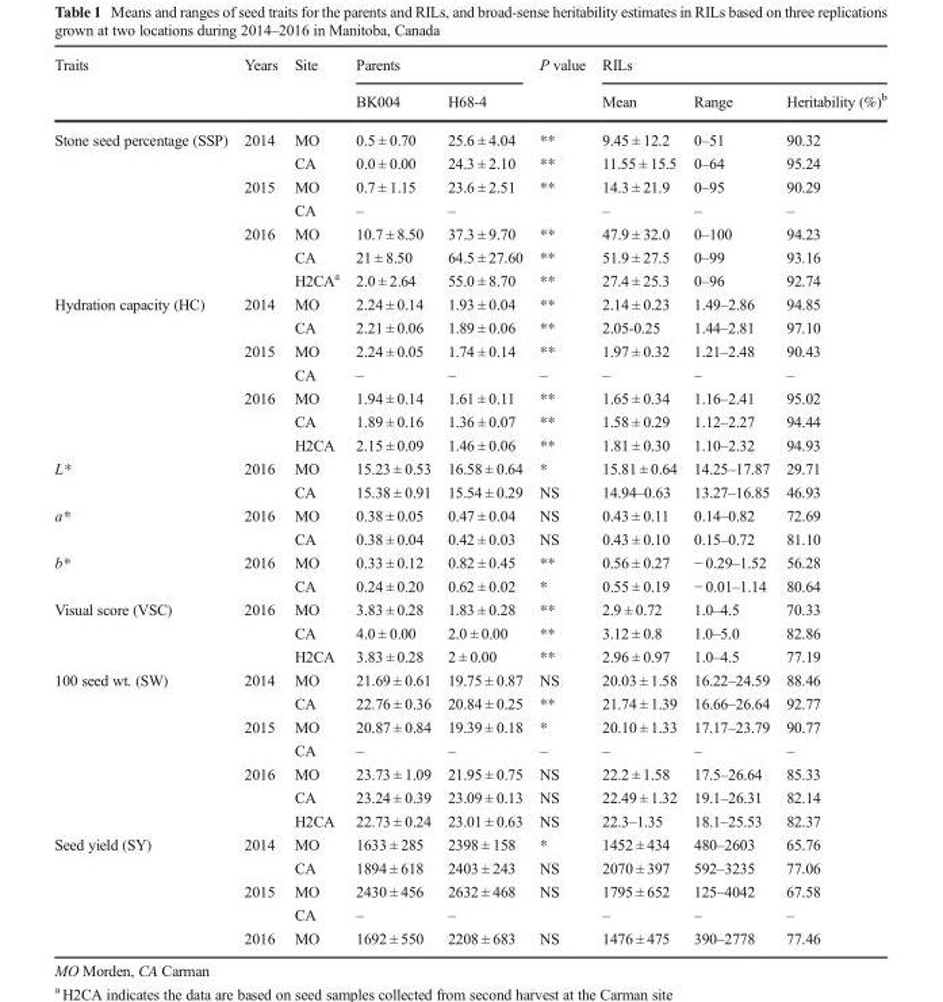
<table><thead><tr><td rowspan="2">Traits</td><td rowspan="2">Years</td><td rowspan="2">Site</td><td colspan="2">Parents</td><td rowspan="2">P value</td><td colspan="3">RILs</td></tr><tr><td>BK004</td><td>H68-4</td><td>Mean</td><td>Range</td><td>Heritability (%)<sup>b</sup></td></tr></thead><tbody><tr><td rowspan="7">Stone seed percentage (SSP)</td><td rowspan="2">2014</td><td>MO</td><td>0.5 ± 0.70</td><td>25.6 ± 4.04</td><td>**</td><td>9.45 ± 12.2</td><td>0–51</td><td>90.32</td></tr><tr><td>CA</td><td>0.0 ± 0.00</td><td>24.3 ± 2.10</td><td>**</td><td>11.55 ± 15.5</td><td>0–64</td><td>95.24</td></tr><tr><td rowspan="2">2015</td><td>MO</td><td>0.7 ± 1.15</td><td>23.6 ± 2.51</td><td>**</td><td>14.3 ± 21.9</td><td>0–95</td><td>90.29</td></tr><tr><td>CA</td><td>–</td><td>–</td><td></td><td>–</td><td>–</td><td>–</td></tr><tr><td rowspan="3">2016</td><td>MO</td><td>10.7 ± 8.50</td><td>37.3 ± 9.70</td><td>**</td><td>47.9 ± 32.0</td><td>0–100</td><td>94.23</td></tr><tr><td>CA</td><td>21 ± 8.50</td><td>64.5 ± 27.60</td><td>**</td><td>51.9 ± 27.5</td><td>0–99</td><td>93.16</td></tr><tr><td>H2CA<sup>a</sup></td><td>2.0 ± 2.64</td><td>55.0 ± 8.70</td><td>**</td><td>27.4 ± 25.3</td><td>0–96</td><td>92.74</td></tr><tr><td rowspan="7">Hydration capacity (HC)</td><td rowspan="2">2014</td><td>MO</td><td>2.24 ± 0.14</td><td>1.93 ± 0.04</td><td>**</td><td>2.14 ± 0.23</td><td>1.49–2.86</td><td>94.85</td></tr><tr><td>CA</td><td>2.21 ± 0.06</td><td>1.89 ± 0.06</td><td>**</td><td>2.05-0.25</td><td>1.44–2.81</td><td>97.10</td></tr><tr><td rowspan="2">2015</td><td>MO</td><td>2.24 ± 0.05</td><td>1.74 ± 0.14</td><td>**</td><td>1.97 ± 0.32</td><td>1.21–2.48</td><td>90.43</td></tr><tr><td>CA</td><td>–</td><td>–</td><td>–</td><td>–</td><td>–</td><td>–</td></tr><tr><td rowspan="3">2016</td><td>MO</td><td>1.94 ± 0.14</td><td>1.61 ± 0.11</td><td>**</td><td>1.65 ± 0.34</td><td>1.16–2.41</td><td>95.02</td></tr><tr><td>CA</td><td>1.89 ± 0.16</td><td>1.36 ± 0.07</td><td>**</td><td>1.58 ± 0.29</td><td>1.12–2.27</td><td>94.44</td></tr><tr><td>H2CA</td><td>2.15 ± 0.09</td><td>1.46 ± 0.06</td><td>**</td><td>1.81 ± 0.30</td><td>1.10–2.32</td><td>94.93</td></tr><tr><td rowspan="2">L*</td><td rowspan="2">2016</td><td>MO</td><td>15.23 ± 0.53</td><td>16.58 ± 0.64</td><td>*</td><td>15.81 ± 0.64</td><td>14.25–17.87</td><td>29.71</td></tr><tr><td>CA</td><td>15.38 ± 0.91</td><td>15.54 ± 0.29</td><td>NS</td><td>14.94–0.63</td><td>13.27–16.85</td><td>46.93</td></tr><tr><td rowspan="2">a*</td><td rowspan="2">2016</td><td>MO</td><td>0.38 ± 0.05</td><td>0.47 ± 0.04</td><td>NS</td><td>0.43 ± 0.11</td><td>0.14–0.82</td><td>72.69</td></tr><tr><td>CA</td><td>0.38 ± 0.04</td><td>0.42 ± 0.03</td><td>NS</td><td>0.43 ± 0.10</td><td>0.15–0.72</td><td>81.10</td></tr><tr><td rowspan="2">b*</td><td rowspan="2">2016</td><td>MO</td><td>0.33 ± 0.12</td><td>0.82 ± 0.45</td><td>**</td><td>0.56 ± 0.27</td><td>− 0.29–1.52</td><td>56.28</td></tr><tr><td>CA</td><td>0.24 ± 0.20</td><td>0.62 ± 0.02</td><td>*</td><td>0.55 ± 0.19</td><td>− 0.01–1.14</td><td>80.64</td></tr><tr><td rowspan="3">Visual score (VSC)</td><td rowspan="3">2016</td><td>MO</td><td>3.83 ± 0.28</td><td>1.83 ± 0.28</td><td>**</td><td>2.9 ± 0.72</td><td>1.0–4.5</td><td>70.33</td></tr><tr><td>CA</td><td>4.0 ± 0.00</td><td>2.0 ± 0.00</td><td>**</td><td>3.12 ± 0.8</td><td>1.0–5.0</td><td>82.86</td></tr><tr><td>H2CA</td><td>3.83 ± 0.28</td><td>2 ± 0.00</td><td>**</td><td>2.96 ± 0.97</td><td>1.0–4.5</td><td>77.19</td></tr><tr><td rowspan="7">100 seed wt. (SW)</td><td rowspan="2">2014</td><td>MO</td><td>21.69 ± 0.61</td><td>19.75 ± 0.87</td><td>NS</td><td>20.03 ± 1.58</td><td>16.22–24.59</td><td>88.46</td></tr><tr><td>CA</td><td>22.76 ± 0.36</td><td>20.84 ± 0.25</td><td>**</td><td>21.74 ± 1.39</td><td>16.66–26.64</td><td>92.77</td></tr><tr><td rowspan="2">2015</td><td>MO</td><td>20.87 ± 0.84</td><td>19.39 ± 0.18</td><td>*</td><td>20.10 ± 1.33</td><td>17.17–23.79</td><td>90.77</td></tr><tr><td>CA</td><td>–</td><td>–</td><td>–</td><td>–</td><td>–</td><td>–</td></tr><tr><td rowspan="3">2016</td><td>MO</td><td>23.73 ± 1.09</td><td>21.95 ± 0.75</td><td>NS</td><td>22.2 ± 1.58</td><td>17.5–26.64</td><td>85.33</td></tr><tr><td>CA</td><td>23.24 ± 0.39</td><td>23.09 ± 0.13</td><td>NS</td><td>22.49 ± 1.32</td><td>19.1–26.31</td><td>82.14</td></tr><tr><td>H2CA</td><td>22.73 ± 0.24</td><td>23.01 ± 0.63</td><td>NS</td><td>22.3–1.35</td><td>18.1–25.53</td><td>82.37</td></tr><tr><td rowspan="5">Seed yield (SY)</td><td rowspan="2">2014</td><td>MO</td><td>1633 ± 285</td><td>2398 ± 158</td><td>*</td><td>1452 ± 434</td><td>480–2603</td><td>65.76</td></tr><tr><td>CA</td><td>1894 ± 618</td><td>2403 ± 243</td><td>NS</td><td>2070 ± 397</td><td>592–3235</td><td>77.06</td></tr><tr><td rowspan="2">2015</td><td>MO</td><td>2430 ± 456</td><td>2632 ± 468</td><td>NS</td><td>1795 ± 652</td><td>125–4042</td><td>67.58</td></tr><tr><td>CA</td><td>–</td><td>–</td><td></td><td>–</td><td>–</td><td>–</td></tr><tr><td>2016</td><td>MO</td><td>1692 ± 550</td><td>2208 ± 683</td><td>NS</td><td>1476 ± 475</td><td>390–2778</td><td>77.46</td></tr></tbody></table>